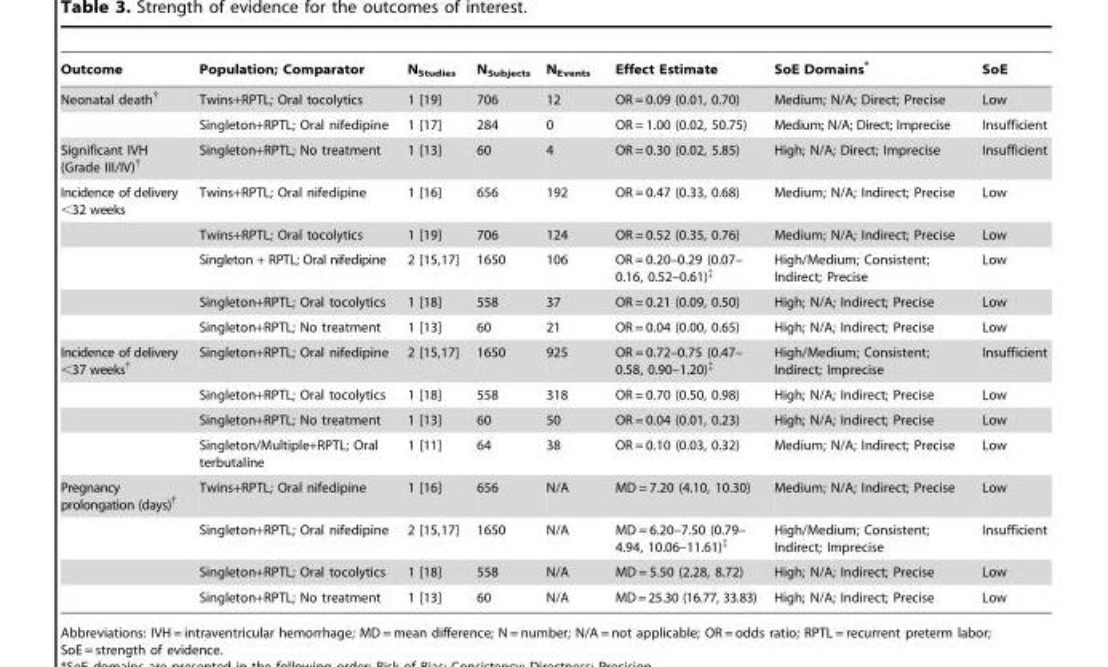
<table><thead><tr><td>Outcome</td><td>Population; Comparator</td><td>N<sub>Studies</sub></td><td>N<sub>Subjects</sub></td><td>N<sub>Events</sub></td><td>Effect Estimate</td><td>SoE Domains*</td><td>SoE</td></tr></thead><tbody><tr><td rowspan="2">Neonatal death†</td><td>Twins+RPTL; Oral tocolytics</td><td>1 [19]</td><td>706</td><td>12</td><td>OR = 0.09 (0.01, 0.70)</td><td>Medium; N/A; Direct; Precise</td><td>Low</td></tr><tr><td>Singleton+RPTL; Oral nifedipine</td><td>1 [17]</td><td>284</td><td>0</td><td>OR = 1.00 (0.02, 50.75)</td><td>Medium; N/A; Direct; Imprecise</td><td>Insufficient</td></tr><tr><td>Significant IVH (Grade III/IV)†</td><td>Singleton+RPTL; No treatment</td><td>1 [13]</td><td>60</td><td>4</td><td>OR = 0.30 (0.02, 5.85)</td><td>High; N/A; Direct; Imprecise</td><td>Insufficient</td></tr><tr><td rowspan="5">Incidence of delivery &lt;32 weeks</td><td>Twins+RPTL; Oral nifedipine</td><td>1 [16]</td><td>656</td><td>192</td><td>OR = 0.47 (0.33, 0.68)</td><td>Medium; N/A; Indirect; Precise</td><td>Low</td></tr><tr><td>Twins+RPTL; Oral tocolytics</td><td>1 [19]</td><td>706</td><td>124</td><td>OR = 0.52 (0.35, 0.76)</td><td>Medium; N/A; Indirect; Precise</td><td>Low</td></tr><tr><td>Singleton + RPTL; Oral nifedipine</td><td>2 [15,17]</td><td>1650</td><td>106</td><td>OR = 0.20–0.29 (0.07– 0.16, 0.52–0.61)‡</td><td>High/Medium; Consistent; Indirect; Precise</td><td>Low</td></tr><tr><td>Singleton+RPTL; Oral tocolytics</td><td>1 [18]</td><td>558</td><td>37</td><td>OR = 0.21 (0.09, 0.50)</td><td>High; N/A; Indirect; Precise</td><td>Low</td></tr><tr><td>Singleton+RPTL; No treatment</td><td>1 [13]</td><td>60</td><td>21</td><td>OR = 0.04 (0.00, 0.65)</td><td>High; N/A; Indirect; Precise</td><td>Low</td></tr><tr><td rowspan="4">Incidence of delivery &lt;37 weeks†</td><td>Singleton+RPTL; Oral nifedipine</td><td>2 [15,17]</td><td>1650</td><td>925</td><td>OR = 0.72–0.75 (0.47– 0.58, 0.90–1.20)‡</td><td>High/Medium; Consistent; Indirect; Imprecise</td><td>Insufficient</td></tr><tr><td>Singleton+RPTL; Oral tocolytics</td><td>1 [18]</td><td>558</td><td>318</td><td>OR = 0.70 (0.50, 0.98)</td><td>High; N/A; Indirect; Precise</td><td>Low</td></tr><tr><td>Singleton+RPTL; No treatment</td><td>1 [13]</td><td>60</td><td>50</td><td>OR = 0.04 (0.01, 0.23)</td><td>High; N/A; Indirect; Precise</td><td>Low</td></tr><tr><td>Singleton/Multiple+RPTL; Oral terbutaline</td><td>1 [11]</td><td>64</td><td>38</td><td>OR = 0.10 (0.03, 0.32)</td><td>Medium; N/A; Indirect; Precise</td><td>Low</td></tr><tr><td rowspan="4">Pregnancy prolongation (days)†</td><td>Twins+RPTL; Oral nifedipine</td><td>1 [16]</td><td>656</td><td>N/A</td><td>MD = 7.20 (4.10, 10.30)</td><td>Medium; N/A; Indirect; Precise</td><td>Low</td></tr><tr><td>Singleton+RPTL; Oral nifedipine</td><td>2 [15,17]</td><td>1650</td><td>N/A</td><td>MD = 6.20–7.50 (0.79– 4.94, 10.06–11.61)‡</td><td>High/Medium; Consistent; Indirect; Imprecise</td><td>Insufficient</td></tr><tr><td>Singleton+RPTL; Oral tocolytics</td><td>1 [18]</td><td>558</td><td>N/A</td><td>MD = 5.50 (2.28, 8.72)</td><td>High; N/A; Indirect; Precise</td><td>Low</td></tr><tr><td>Singleton+RPTL; No treatment</td><td>1 [13]</td><td>60</td><td>N/A</td><td>MD=25.30 (16.77, 33.83)</td><td>High; N/A; Indirect; Precise</td><td>Low</td></tr></tbody></table>